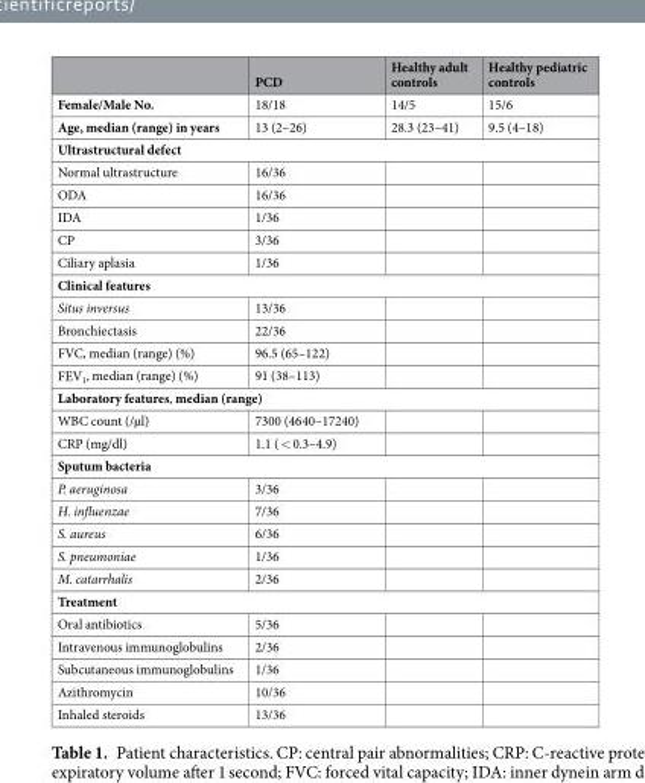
<table><thead><tr><td></td><td>PCD</td><td>Healthy adult controls</td><td>Healthy pediatric controls</td></tr></thead><tbody><tr><td>Female/Male No.</td><td>18/18</td><td>14/5</td><td>15/6</td></tr><tr><td>Age, median (range) in years</td><td>13 (2–26)</td><td>28.3 (23–41)</td><td>9.5 (4–18)</td></tr><tr><td colspan="4">Ultrastructural defect</td></tr><tr><td>Normal ultrastructure</td><td>16/36</td><td></td><td></td></tr><tr><td>ODA</td><td>16/36</td><td></td><td></td></tr><tr><td>IDA</td><td>1/36</td><td></td><td></td></tr><tr><td>CP</td><td>3/36</td><td></td><td></td></tr><tr><td>Ciliary aplasia</td><td>1/36</td><td></td><td></td></tr><tr><td colspan="4">Clinical features</td></tr><tr><td>Situs inversus</td><td>13/36</td><td></td><td></td></tr><tr><td>Bronchiectasis</td><td>22/36</td><td></td><td></td></tr><tr><td>FVC, median (range) (%)</td><td>96.5 (65–122)</td><td></td><td></td></tr><tr><td>FEV<sub>1</sub>, median (range) (%)</td><td>91 (38–113)</td><td></td><td></td></tr><tr><td colspan="4">Laboratory features, median (range)</td></tr><tr><td>WBC count (/µl)</td><td>7300 (4640–17240)</td><td></td><td></td></tr><tr><td>CRP (mg/dl)</td><td>1.1 ( &lt; 0.3–4.9)</td><td></td><td></td></tr><tr><td colspan="4">Sputum bacteria</td></tr><tr><td>P. aeruginosa</td><td>3/36</td><td></td><td></td></tr><tr><td>H. influenzae</td><td>7/36</td><td></td><td></td></tr><tr><td>S. aureus</td><td>6/36</td><td></td><td></td></tr><tr><td>S. pneumoniae</td><td>1/36</td><td></td><td></td></tr><tr><td>M. catarrhalis</td><td>2/36</td><td></td><td></td></tr><tr><td colspan="4">Treatment</td></tr><tr><td>Oral antibiotics</td><td>5/36</td><td></td><td></td></tr><tr><td>Intravenous immunoglobulins</td><td>2/36</td><td></td><td></td></tr><tr><td>Subcutaneous immunoglobulins</td><td>1/36</td><td></td><td></td></tr><tr><td>Azithromycin</td><td>10/36</td><td></td><td></td></tr><tr><td>Inhaled steroids</td><td>13/36</td><td></td><td></td></tr></tbody></table>